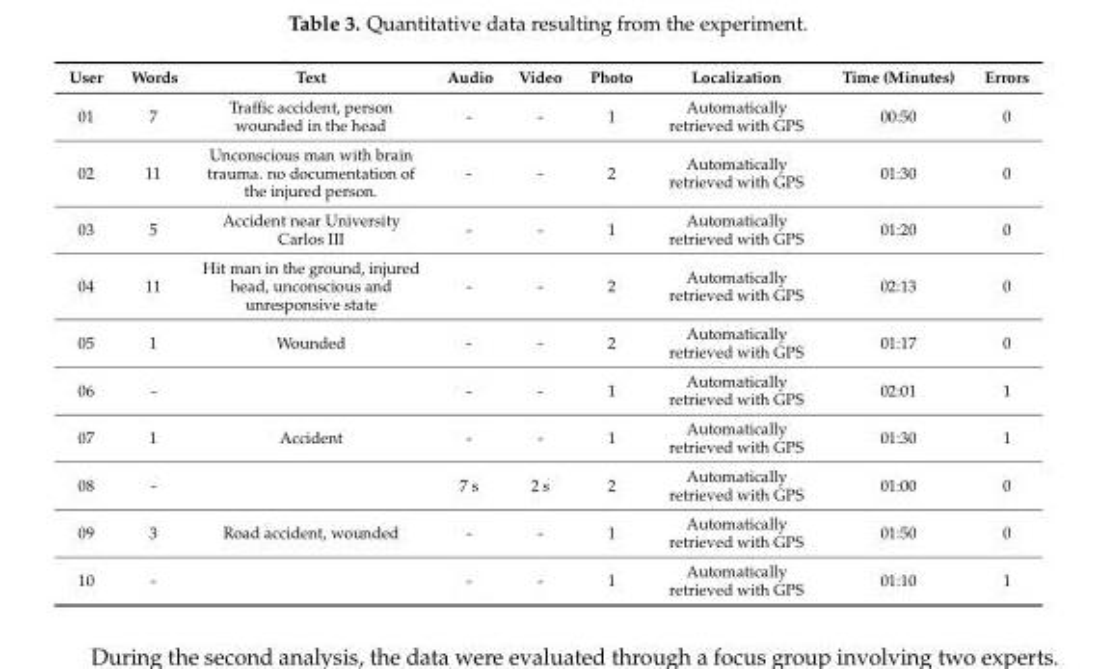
<table><thead><tr><td>User</td><td>Words</td><td>Text</td><td>Audio</td><td>Video</td><td>Photo</td><td>Localization</td><td>Time (Minutes)</td><td>Errors</td></tr></thead><tbody><tr><td>01</td><td>7</td><td>Traffic accident, person wounded in the head</td><td>-</td><td>-</td><td>1</td><td>Automatically retrieved with GPS</td><td>00:50</td><td>0</td></tr><tr><td>02</td><td>11</td><td>Unconscious man with brain trauma. no documentation of the injured person.</td><td>-</td><td>-</td><td>2</td><td>Automatically retrieved with GPS</td><td>01:30</td><td>0</td></tr><tr><td>03</td><td>5</td><td>Accident near University Carlos III</td><td>-</td><td>-</td><td>1</td><td>Automatically retrieved with GPS</td><td>01:20</td><td>0</td></tr><tr><td>04</td><td>11</td><td>Hit man in the ground, injured head, unconscious and unresponsive state</td><td>-</td><td>-</td><td>2</td><td>Automatically retrieved with GPS</td><td>02:13</td><td>0</td></tr><tr><td>05</td><td>1</td><td>Wounded</td><td>-</td><td>-</td><td>2</td><td>Automatically retrieved with GPS</td><td>01:17</td><td>0</td></tr><tr><td>06</td><td>-</td><td></td><td>-</td><td>-</td><td>1</td><td>Automatically retrieved with GPS</td><td>02:01</td><td>1</td></tr><tr><td>07</td><td>1</td><td>Accident</td><td>-</td><td>-</td><td>1</td><td>Automatically retrieved with GPS</td><td>01:30</td><td>1</td></tr><tr><td>08</td><td>-</td><td></td><td>7 s</td><td>2 s</td><td>2</td><td>Automatically retrieved with GPS</td><td>01:00</td><td>0</td></tr><tr><td>09</td><td>3</td><td>Road accident, wounded</td><td>-</td><td>-</td><td>1</td><td>Automatically retrieved with GPS</td><td>01:50</td><td>0</td></tr><tr><td>10</td><td>-</td><td></td><td>-</td><td>-</td><td>1</td><td>Automatically retrieved with GPS</td><td>01:10</td><td>1</td></tr></tbody></table>